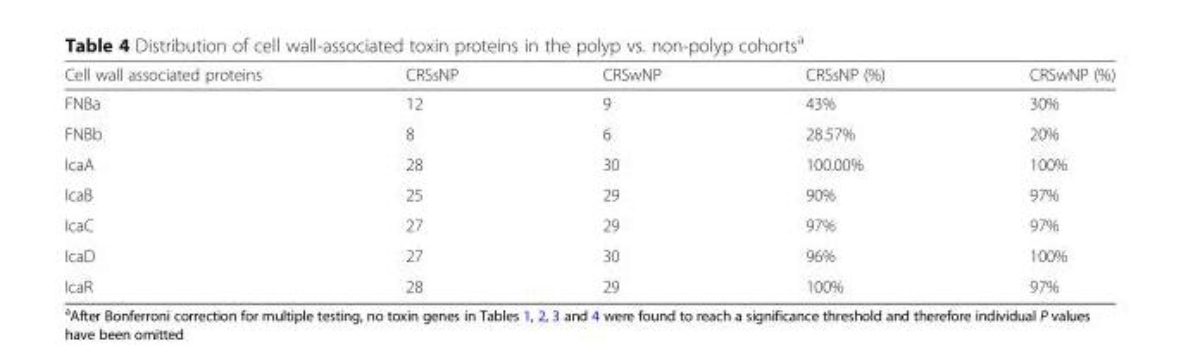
<table><thead><tr><td>Cell wall associated proteins</td><td>CRSsNP</td><td>CRSwNP</td><td>CRSsNP (%)</td><td>CRSwNP (%)</td></tr></thead><tbody><tr><td>FNBa</td><td>12</td><td>9</td><td>43%</td><td>30%</td></tr><tr><td>FNBb</td><td>8</td><td>6</td><td>28.57%</td><td>20%</td></tr><tr><td>IcaA</td><td>28</td><td>30</td><td>100.00%</td><td>100%</td></tr><tr><td>IcaB</td><td>25</td><td>29</td><td>90%</td><td>97%</td></tr><tr><td>IcaC</td><td>27</td><td>29</td><td>97%</td><td>97%</td></tr><tr><td>IcaD</td><td>27</td><td>30</td><td>96%</td><td>100%</td></tr><tr><td>IcaR</td><td>28</td><td>29</td><td>100%</td><td>97%</td></tr></tbody></table>